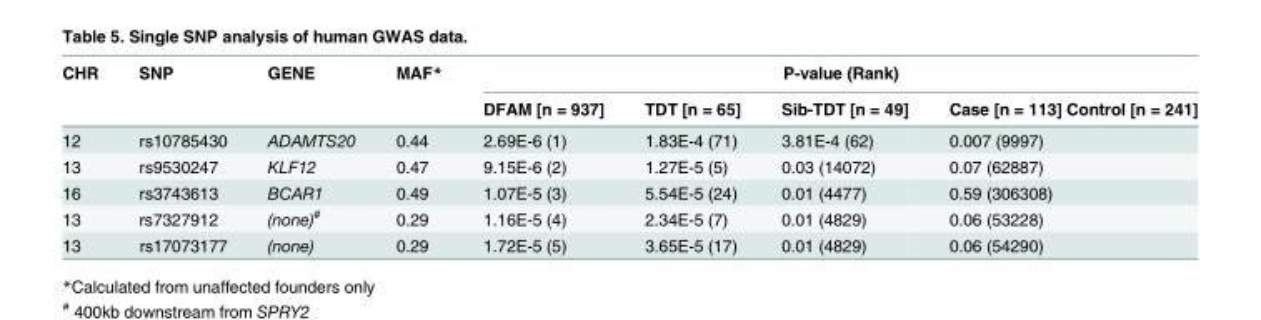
<table><thead><tr><td rowspan="2">CHR</td><td rowspan="2">SNP</td><td rowspan="2">GENE</td><td rowspan="2">MAF*</td><td colspan="4">P-value (Rank)</td></tr><tr><td>DFAM [n = 937]</td><td>TDT [n = 65]</td><td>Sib-TDT [n = 49]</td><td>Case [n = 113] Control [n = 241]</td></tr></thead><tbody><tr><td>12</td><td>rs10785430</td><td>ADAMTS20</td><td>0.44</td><td>2.69E-6 (1)</td><td>1.83E-4 (71)</td><td>3.81E-4 (62)</td><td>0.007 (9997)</td></tr><tr><td>13</td><td>rs9530247</td><td>KLF12</td><td>0.47</td><td>9.15E-6 (2)</td><td>1.27E-5 (5)</td><td>0.03 (14072)</td><td>0.07 (62887)</td></tr><tr><td>16</td><td>rs3743613</td><td>BCAR1</td><td>0.49</td><td>1.07E-5 (3)</td><td>5.54E-5 (24)</td><td>0.01 (4477)</td><td>0.59 (306308)</td></tr><tr><td>13</td><td>rs7327912</td><td>(none)<sup>#</sup></td><td>0.29</td><td>1.16E-5 (4)</td><td>2.34E-5 (7)</td><td>0.01 (4829)</td><td>0.06 (53228)</td></tr><tr><td>13</td><td>rs17073177</td><td>(none)</td><td>0.29</td><td>1.72E-5 (5)</td><td>3.65E-5 (17)</td><td>0.01 (4829)</td><td>0.06 (54290)</td></tr></tbody></table>